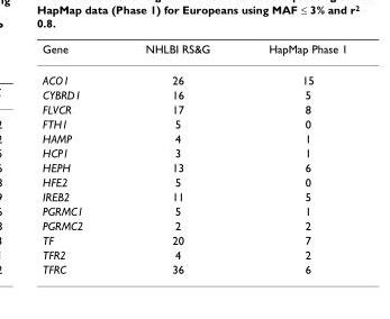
<table><thead><tr><td>Gene</td><td>NHLBI RS&amp;G</td><td>HapMap Phase 1</td></tr></thead><tbody><tr><td>ACO1</td><td>26</td><td>15</td></tr><tr><td>CYBRD1</td><td>16</td><td>5</td></tr><tr><td>FLVCR</td><td>17</td><td>8</td></tr><tr><td>FTH1</td><td>5</td><td>0</td></tr><tr><td>HAMP</td><td>4</td><td>1</td></tr><tr><td>HCP1</td><td>3</td><td>1</td></tr><tr><td>HEPH</td><td>13</td><td>6</td></tr><tr><td>HFE2</td><td>5</td><td>0</td></tr><tr><td>IREB2</td><td>11</td><td>5</td></tr><tr><td>PGRMC1</td><td>5</td><td>1</td></tr><tr><td>PGRMC2</td><td>2</td><td>2</td></tr><tr><td>TF</td><td>20</td><td>7</td></tr><tr><td>TFR2</td><td>4</td><td>2</td></tr><tr><td>TFRC</td><td>36</td><td>6</td></tr></tbody></table>